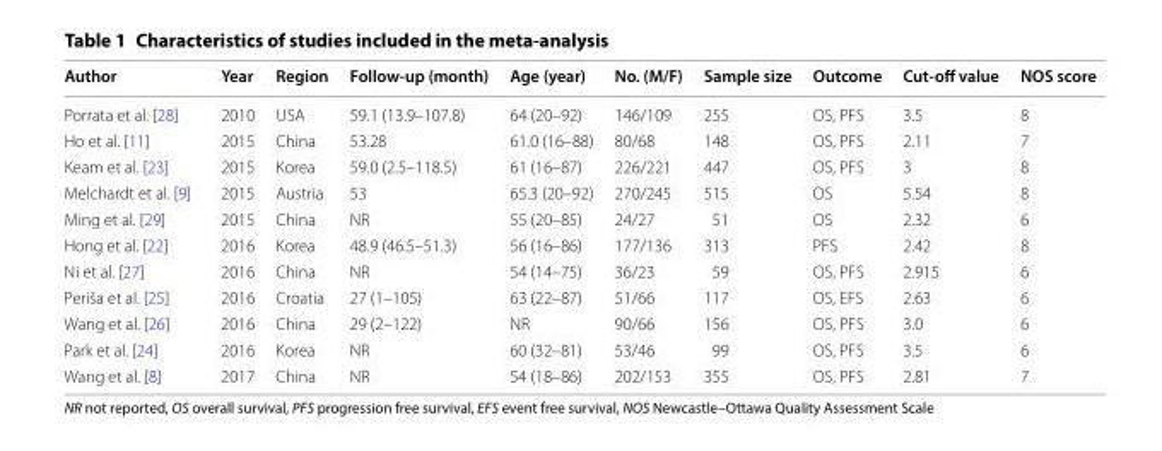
<table><thead><tr><td>Author</td><td>Year</td><td>Region</td><td>Follow-up (month)</td><td>Age (year)</td><td>No. (M/F)</td><td>Sample size</td><td>Outcome</td><td>Cut-off value</td><td>NOS score</td></tr></thead><tbody><tr><td>Porrata et al. [28]</td><td>2010</td><td>USA</td><td>59.1 (13.9–107.8)</td><td>64 (20–92)</td><td>146/109</td><td>255</td><td>OS, PFS</td><td>3.5</td><td>8</td></tr><tr><td>Ho et al. [11]</td><td>2015</td><td>China</td><td>53.28</td><td>61.0 (16–88)</td><td>80/68</td><td>148</td><td>OS, PFS</td><td>2.11</td><td>7</td></tr><tr><td>Keam et al. [23]</td><td>2015</td><td>Korea</td><td>59.0 (2.5–118.5)</td><td>61 (16–87)</td><td>226/221</td><td>447</td><td>OS, PFS</td><td>3</td><td>8</td></tr><tr><td>Melchardt et al. [9]</td><td>2015</td><td>Austria</td><td>53</td><td>65.3 (20–92)</td><td>270/245</td><td>515</td><td>OS</td><td>5.54</td><td>8</td></tr><tr><td>Ming et al. [29]</td><td>2015</td><td>China</td><td>NR</td><td>55 (20–85)</td><td>24/27</td><td>51</td><td>OS</td><td>2.32</td><td>6</td></tr><tr><td>Hong et al. [22]</td><td>2016</td><td>Korea</td><td>48.9 (46.5–51.3)</td><td>56 (16–86)</td><td>177/136</td><td>313</td><td>PFS</td><td>2.42</td><td>8</td></tr><tr><td>Ni et al. [27]</td><td>2016</td><td>China</td><td>NR</td><td>54 (14–75)</td><td>36/23</td><td>59</td><td>OS, PFS</td><td>2.915</td><td>6</td></tr><tr><td>Periša et al. [25]</td><td>2016</td><td>Croatia</td><td>27 (1–105)</td><td>63 (22–87)</td><td>51/66</td><td>117</td><td>OS, EFS</td><td>2.63</td><td>6</td></tr><tr><td>Wang et al. [26]</td><td>2016</td><td>China</td><td>29 (2–122)</td><td>NR</td><td>90/66</td><td>156</td><td>OS, PFS</td><td>3.0</td><td>6</td></tr><tr><td>Park et al. [24]</td><td>2016</td><td>Korea</td><td>NR</td><td>60 (32–81)</td><td>53/46</td><td>99</td><td>OS, PFS</td><td>3.5</td><td>6</td></tr><tr><td>Wang et al. [8]</td><td>2017</td><td>China</td><td>NR</td><td>54 (18–86)</td><td>202/153</td><td>355</td><td>OS, PFS</td><td>2.81</td><td>7</td></tr></tbody></table>